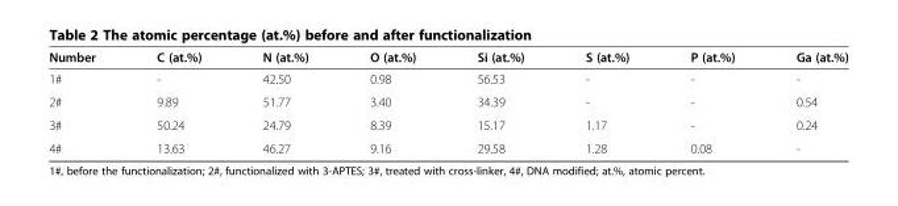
<table><thead><tr><td>Number</td><td>C (at.%)</td><td>N (at.%)</td><td>O (at.%)</td><td>Si (at.%)</td><td>S (at.%)</td><td>P (at.%)</td><td>Ga (at.%)</td></tr></thead><tbody><tr><td>1#</td><td>-</td><td>42.50</td><td>0.98</td><td>56.53</td><td>-</td><td>-</td><td>-</td></tr><tr><td>2#</td><td>9.89</td><td>51.77</td><td>3.40</td><td>34.39</td><td>-</td><td>-</td><td>0.54</td></tr><tr><td>3#</td><td>50.24</td><td>24.79</td><td>8.39</td><td>15.17</td><td>1.17</td><td>-</td><td>0.24</td></tr><tr><td>4#</td><td>13.63</td><td>46.27</td><td>9.16</td><td>29.58</td><td>1.28</td><td>0.08</td><td>-</td></tr></tbody></table>